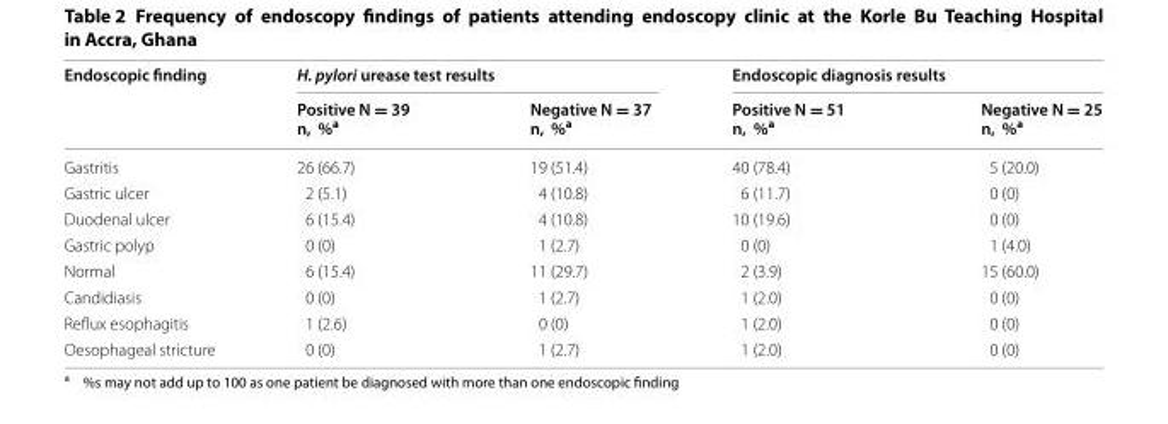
<table><thead><tr><td rowspan="2">Endoscopic finding</td><td colspan="2">H. pylori urease test results</td><td colspan="2">Endoscopic diagnosis results</td></tr><tr><td>Positive N = 39 n, %<sup>a</sup></td><td>Negative N = 37 n, %<sup>a</sup></td><td>Positive N = 51 n, %<sup>a</sup></td><td>Negative N = 25 n, %<sup>a</sup></td></tr></thead><tbody><tr><td>Gastritis</td><td>26 (66.7)</td><td>19 (51.4)</td><td>40 (78.4)</td><td>5 (20.0)</td></tr><tr><td>Gastric ulcer</td><td>2 (5.1)</td><td>4 (10.8)</td><td>6 (11.7)</td><td>0 (0)</td></tr><tr><td>Duodenal ulcer</td><td>6 (15.4)</td><td>4 (10.8)</td><td>10 (19.6)</td><td>0 (0)</td></tr><tr><td>Gastric polyp</td><td>0 (0)</td><td>1 (2.7)</td><td>0 (0)</td><td>1 (4.0)</td></tr><tr><td>Normal</td><td>6 (15.4)</td><td>11 (29.7)</td><td>2 (3.9)</td><td>15 (60.0)</td></tr><tr><td>Candidiasis</td><td>0 (0)</td><td>1 (2.7)</td><td>1 (2.0)</td><td>0 (0)</td></tr><tr><td>Reflux esophagitis</td><td>1 (2.6)</td><td>0 (0)</td><td>1 (2.0)</td><td>0 (0)</td></tr><tr><td>Oesophageal stricture</td><td>0 (0)</td><td>1 (2.7)</td><td>1 (2.0)</td><td>0 (0)</td></tr></tbody></table>